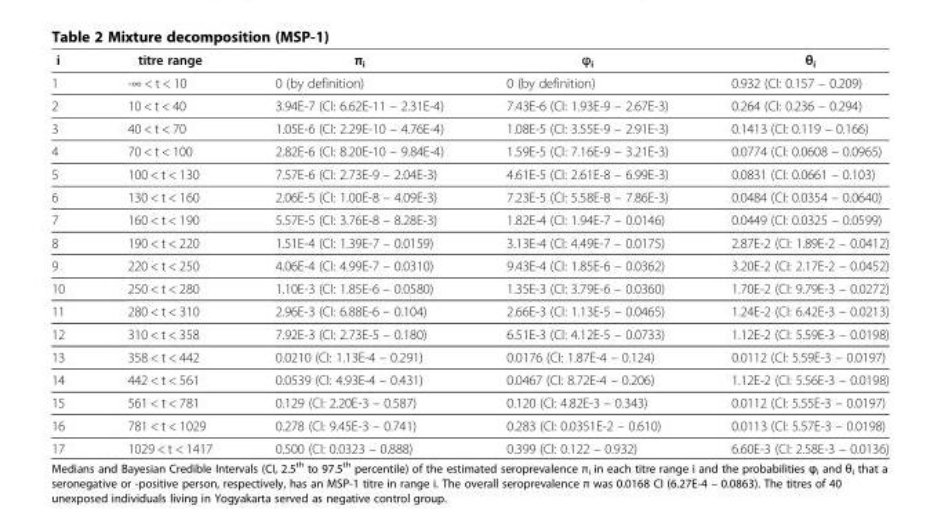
<table><thead><tr><td>i</td><td>titre range</td><td>π<sub>i</sub></td><td>ϕ<sub>i</sub></td><td>θ<sub>i</sub></td></tr></thead><tbody><tr><td>1</td><td>-∞ &lt; t &lt; 10</td><td>0 (by definition)</td><td>0 (by definition)</td><td>0.932 (CI: 0.157 – 0.209)</td></tr><tr><td>2</td><td>10 &lt; t &lt; 40</td><td>3.94E-7 (CI: 6.62E-11 – 2.31E-4)</td><td>7.43E-6 (CI: 1.93E-9 – 2.67E-3)</td><td>0.264 (CI: 0.236 – 0.294)</td></tr><tr><td>3</td><td>40 &lt; t &lt; 70</td><td>1.05E-6 (CI: 2.29E-10 – 4.76E-4)</td><td>1.08E-5 (CI: 3.55E-9 – 2.91E-3)</td><td>0.1413 (CI: 0.119 – 0.166)</td></tr><tr><td>4</td><td>70 &lt; t &lt; 100</td><td>2.82E-6 (CI: 8.20E-10 – 9.84E-4)</td><td>1.59E-5 (CI: 7.16E-9 – 3.21E-3)</td><td>0.0774 (CI: 0.0608 – 0.0965)</td></tr><tr><td>5</td><td>100 &lt; t &lt; 130</td><td>7.57E-6 (CI: 2.73E-9 – 2.04E-3)</td><td>4.61E-5 (CI: 2.61E-8 – 6.99E-3)</td><td>0.0831 (CI: 0.0661 – 0.103)</td></tr><tr><td>6</td><td>130 &lt; t &lt; 160</td><td>2.06E-5 (CI: 1.00E-8 – 4.09E-3)</td><td>7.23E-5 (CI: 5.58E-8 – 7.86E-3)</td><td>0.0484 (CI: 0.0354 – 0.0640)</td></tr><tr><td>7</td><td>160 &lt; t &lt; 190</td><td>5.57E-5 (CI: 3.76E-8 – 8.28E-3)</td><td>1.82E-4 (CI: 1.94E-7 – 0.0146)</td><td>0.0449 (CI: 0.0325 – 0.0599)</td></tr><tr><td>8</td><td>190 &lt; t &lt; 220</td><td>1.51E-4 (CI: 1.39E-7 – 0.0159)</td><td>3.13E-4 (CI: 4.49E-7 – 0.0175)</td><td>2.87E-2 (CI: 1.89E-2 – 0.0412)</td></tr><tr><td>9</td><td>220 &lt; t &lt; 250</td><td>4.06E-4 (CI: 4.99E-7 – 0.0310)</td><td>9.43E-4 (CI: 1.85E-6 – 0.0362)</td><td>3.20E-2 (CI: 2.17E-2 – 0.0452)</td></tr><tr><td>10</td><td>250 &lt; t &lt; 280</td><td>1.10E-3 (CI: 1.85E-6 – 0.0580)</td><td>1.35E-3 (CI: 3.79E-6 – 0.0360)</td><td>1.70E-2 (CI: 9.79E-3 – 0.0272)</td></tr><tr><td>11</td><td>280 &lt; t &lt; 310</td><td>2.96E-3 (CI: 6.88E-6 – 0.104)</td><td>2.66E-3 (CI: 1.13E-5 – 0.0465)</td><td>1.24E-2 (CI: 6.42E-3 – 0.0213)</td></tr><tr><td>12</td><td>310 &lt; t &lt; 358</td><td>7.92E-3 (CI: 2.73E-5 – 0.180)</td><td>6.51E-3 (CI: 4.12E-5 – 0.0733)</td><td>1.12E-2 (CI: 5.59E-3 – 0.0198)</td></tr><tr><td>13</td><td>358 &lt; t &lt; 442</td><td>0.0210 (CI: 1.13E-4 – 0.291)</td><td>0.0176 (CI: 1.87E-4 – 0.124)</td><td>0.0112 (CI: 5.59E-3 – 0.0197)</td></tr><tr><td>14</td><td>442 &lt; t &lt; 561</td><td>0.0539 (CI: 4.93E-4 – 0.431)</td><td>0.0467 (CI: 8.72E-4 – 0.206)</td><td>1.12E-2 (CI: 5.56E-3 – 0.0198)</td></tr><tr><td>15</td><td>561 &lt; t &lt; 781</td><td>0.129 (CI: 2.20E-3 – 0.587)</td><td>0.120 (CI: 4.82E-3 – 0.343)</td><td>0.0112 (CI: 5.55E-3 – 0.0197)</td></tr><tr><td>16</td><td>781 &lt; t &lt; 1029</td><td>0.278 (CI: 9.45E-3 – 0.741)</td><td>0.283 (CI: 0.0351E-2 – 0.610)</td><td>0.0113 (CI: 5.57E-3 – 0.0198)</td></tr><tr><td>17</td><td>1029 &lt; t &lt; 1417</td><td>0.500 (CI: 0.0323 – 0.888)</td><td>0.399 (CI: 0.122 – 0.932)</td><td>6.60E-3 (CI: 2.58E-3 – 0.0136)</td></tr></tbody></table>